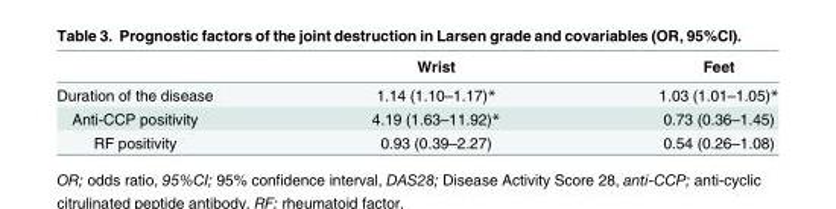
<table><thead><tr><td></td><td>Wrist</td><td>Feet</td></tr></thead><tbody><tr><td>Duration of the disease</td><td>1.14 (1.10–1.17)*</td><td>1.03 (1.01–1.05)*</td></tr><tr><td>Anti-CCP positivity</td><td>4.19 (1.63–11.92)*</td><td>0.73 (0.36–1.45)</td></tr><tr><td>RF positivity</td><td>0.93 (0.39–2.27)</td><td>0.54 (0.26–1.08)</td></tr></tbody></table>